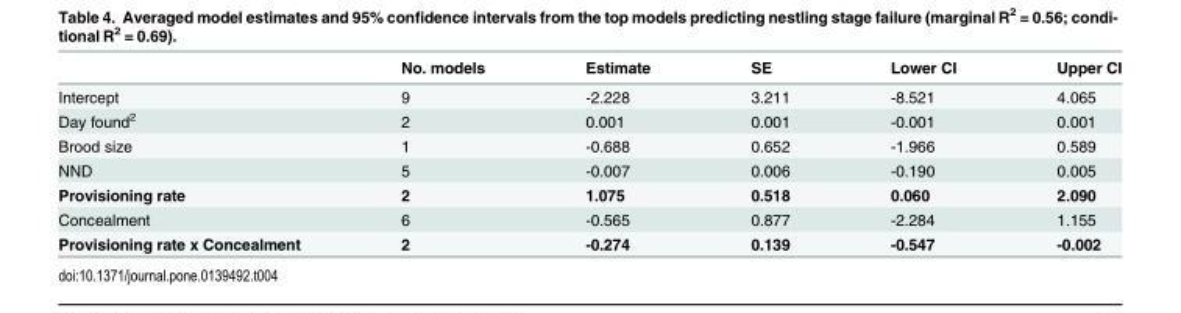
<table><thead><tr><td></td><td>No. models</td><td>Estimate</td><td>SE</td><td>Lower CI</td><td>Upper CI</td></tr></thead><tbody><tr><td>Intercept</td><td>9</td><td>-2.228</td><td>3.211</td><td>-8.521</td><td>4.065</td></tr><tr><td>Day found<sup>2</sup></td><td>2</td><td>0.001</td><td>0.001</td><td>-0.001</td><td>0.001</td></tr><tr><td>Brood size</td><td>1</td><td>-0.688</td><td>0.652</td><td>-1.966</td><td>0.589</td></tr><tr><td>NND</td><td>5</td><td>-0.007</td><td>0.006</td><td>-0.190</td><td>0.005</td></tr><tr><td>Provisioning rate</td><td>2</td><td>1.075</td><td>0.518</td><td>0.060</td><td>2.090</td></tr><tr><td>Concealment</td><td>6</td><td>-0.565</td><td>0.877</td><td>-2.284</td><td>1.155</td></tr><tr><td>Provisioning rate x Concealment</td><td>2</td><td>-0.274</td><td>0.139</td><td>-0.547</td><td>-0.002</td></tr></tbody></table>